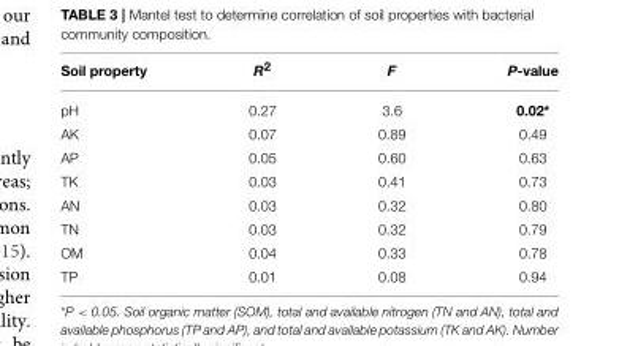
<table><thead><tr><td>Soil property</td><td>R<sup>2</sup></td><td>F</td><td>P-value</td></tr></thead><tbody><tr><td>pH</td><td>0.27</td><td>3.6</td><td>0.02*</td></tr><tr><td>AK</td><td>0.07</td><td>0.89</td><td>0.49</td></tr><tr><td>AP</td><td>0.05</td><td>0.60</td><td>0.63</td></tr><tr><td>TK</td><td>0.03</td><td>0.41</td><td>0.73</td></tr><tr><td>AN</td><td>0.03</td><td>0.32</td><td>0.80</td></tr><tr><td>TN</td><td>0.03</td><td>0.32</td><td>0.79</td></tr><tr><td>OM</td><td>0.04</td><td>0.33</td><td>0.78</td></tr><tr><td>TP</td><td>0.01</td><td>0.08</td><td>0.94</td></tr></tbody></table>